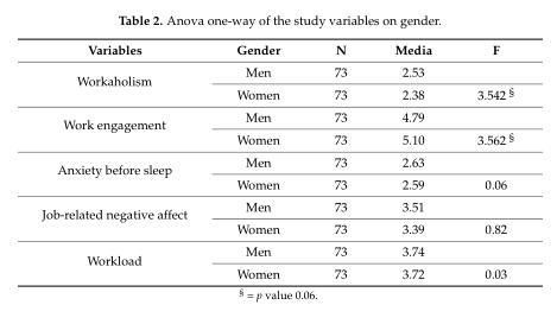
<table><thead><tr><td>Variables</td><td>Gender</td><td>N</td><td>Media</td><td>F</td></tr></thead><tbody><tr><td rowspan="2">Workaholism</td><td>Men</td><td>73</td><td>2.53</td><td></td></tr><tr><td>Women</td><td>73</td><td>2.38</td><td>3.542 <sup>§</sup></td></tr><tr><td rowspan="2">Work engagement</td><td>Men</td><td>73</td><td>4.79</td><td></td></tr><tr><td>Women</td><td>73</td><td>5.10</td><td>3.562 <sup>§</sup></td></tr><tr><td rowspan="2">Anxiety before sleep</td><td>Men</td><td>73</td><td>2.63</td><td></td></tr><tr><td>Women</td><td>73</td><td>2.59</td><td>0.06</td></tr><tr><td rowspan="2">Job-related negative affect</td><td>Men</td><td>73</td><td>3.51</td><td></td></tr><tr><td>Women</td><td>73</td><td>3.39</td><td>0.82</td></tr><tr><td rowspan="2">Workload</td><td>Men</td><td>73</td><td>3.74</td><td></td></tr><tr><td>Women</td><td>73</td><td>3.72</td><td>0.03</td></tr></tbody></table>